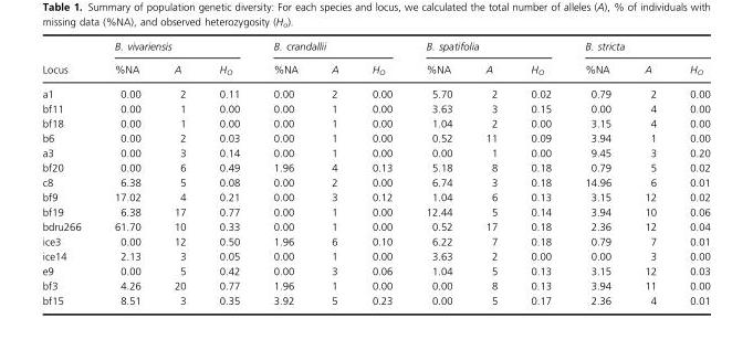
<table><thead><tr><td rowspan="2">Locus</td><td colspan="3">B. vivariensis</td><td colspan="3">B. crandallii</td><td colspan="3">B. spatifolia</td><td colspan="3">B. stricta</td></tr><tr><td>%NA</td><td>A</td><td>H<sub>O</sub></td><td>%NA</td><td>A</td><td>H<sub>O</sub></td><td>%NA</td><td>A</td><td>H<sub>O</sub></td><td>%NA</td><td>A</td><td>H<sub>O</sub></td></tr></thead><tbody><tr><td>a1</td><td>0.00</td><td>2</td><td>0.11</td><td>0.00</td><td>2</td><td>0.00</td><td>5.70</td><td>2</td><td>0.02</td><td>0.79</td><td>2</td><td>0.00</td></tr><tr><td>bf11</td><td>0.00</td><td>1</td><td>0.00</td><td>0.00</td><td>1</td><td>0.00</td><td>3.63</td><td>3</td><td>0.15</td><td>0.00</td><td>4</td><td>0.00</td></tr><tr><td>bf18</td><td>0.00</td><td>1</td><td>0.00</td><td>0.00</td><td>1</td><td>0.00</td><td>1.04</td><td>2</td><td>0.00</td><td>3.15</td><td>4</td><td>0.00</td></tr><tr><td>b6</td><td>0.00</td><td>2</td><td>0.03</td><td>0.00</td><td>1</td><td>0.00</td><td>0.52</td><td>11</td><td>0.09</td><td>3.94</td><td>1</td><td>0.00</td></tr><tr><td>a3</td><td>0.00</td><td>3</td><td>0.14</td><td>0.00</td><td>1</td><td>0.00</td><td>0.00</td><td>1</td><td>0.00</td><td>9.45</td><td>3</td><td>0.20</td></tr><tr><td>bf20</td><td>0.00</td><td>6</td><td>0.49</td><td>1.96</td><td>4</td><td>0.13</td><td>5.18</td><td>8</td><td>0.18</td><td>0.79</td><td>5</td><td>0.02</td></tr><tr><td>c8</td><td>6.38</td><td>5</td><td>0.08</td><td>0.00</td><td>2</td><td>0.00</td><td>6.74</td><td>3</td><td>0.18</td><td>14.96</td><td>6</td><td>0.01</td></tr><tr><td>bf9</td><td>17.02</td><td>4</td><td>0.21</td><td>0.00</td><td>3</td><td>0.12</td><td>1.04</td><td>6</td><td>0.13</td><td>3.15</td><td>12</td><td>0.02</td></tr><tr><td>bf19</td><td>6.38</td><td>17</td><td>0.77</td><td>0.00</td><td>1</td><td>0.00</td><td>12.44</td><td>5</td><td>0.14</td><td>3.94</td><td>10</td><td>0.06</td></tr><tr><td>bdru266</td><td>61.70</td><td>10</td><td>0.33</td><td>0.00</td><td>1</td><td>0.00</td><td>0.52</td><td>17</td><td>0.18</td><td>2.36</td><td>12</td><td>0.04</td></tr><tr><td>ice3</td><td>0.00</td><td>12</td><td>0.50</td><td>1.96</td><td>6</td><td>0.10</td><td>6.22</td><td>7</td><td>0.18</td><td>0.79</td><td>7</td><td>0.01</td></tr><tr><td>ice14</td><td>2.13</td><td>3</td><td>0.05</td><td>0.00</td><td>1</td><td>0.00</td><td>3.63</td><td>2</td><td>0.00</td><td>0.00</td><td>3</td><td>0.00</td></tr><tr><td>e9</td><td>0.00</td><td>5</td><td>0.42</td><td>0.00</td><td>3</td><td>0.06</td><td>1.04</td><td>5</td><td>0.13</td><td>3.15</td><td>12</td><td>0.03</td></tr><tr><td>bf3</td><td>4.26</td><td>20</td><td>0.77</td><td>1.96</td><td>1</td><td>0.00</td><td>0.00</td><td>8</td><td>0.13</td><td>3.94</td><td>11</td><td>0.00</td></tr><tr><td>bf15</td><td>8.51</td><td>3</td><td>0.35</td><td>3.92</td><td>5</td><td>0.23</td><td>0.00</td><td>5</td><td>0.17</td><td>2.36</td><td>4</td><td>0.01</td></tr></tbody></table>